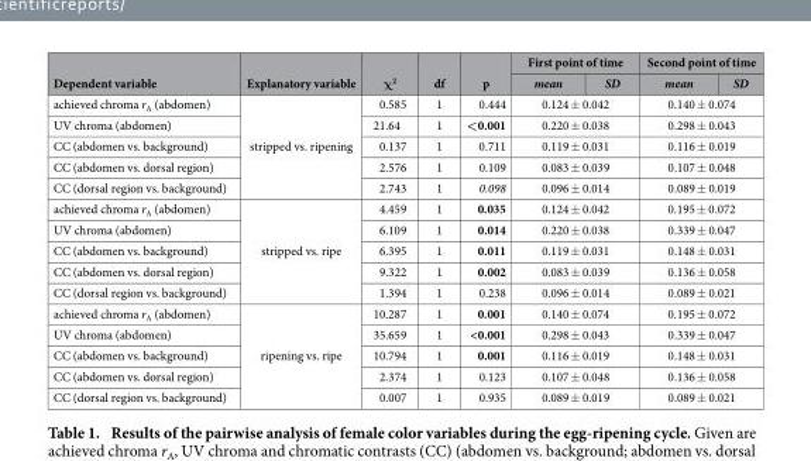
<table><thead><tr><td rowspan="2">Dependent variable</td><td rowspan="2">Explanatory variable</td><td rowspan="2">χ<sup>2</sup></td><td rowspan="2">df</td><td rowspan="2">p</td><td colspan="2">First point of time</td><td colspan="2">Second point of time</td></tr><tr><td>mean</td><td>SD</td><td>mean</td><td>SD</td></tr></thead><tbody><tr><td>achieved chroma r<sub>A</sub> (abdomen)</td><td rowspan="5">stripped vs. ripening</td><td>0.585</td><td>1</td><td>0.444</td><td colspan="2">0.124 ± 0.042</td><td colspan="2">0.140 ± 0.074</td></tr><tr><td>UV chroma (abdomen)</td><td>21.64</td><td>1</td><td>&lt;0.001</td><td colspan="2">0.220 ± 0.038</td><td colspan="2">0.298 ± 0.043</td></tr><tr><td>CC (abdomen vs. background)</td><td>0.137</td><td>1</td><td>0.711</td><td colspan="2">0.119 ± 0.031</td><td colspan="2">0.116 ± 0.019</td></tr><tr><td>CC (abdomen vs. dorsal region)</td><td>2.576</td><td>1</td><td>0.109</td><td colspan="2">0.083 ± 0.039</td><td colspan="2">0.107 ± 0.048</td></tr><tr><td>CC (dorsal region vs. background)</td><td>2.743</td><td>1</td><td>0.098</td><td colspan="2">0.096 ± 0.014</td><td colspan="2">0.089 ± 0.019</td></tr><tr><td>achieved chroma r<sub>A</sub> (abdomen)</td><td rowspan="5">stripped vs. ripe</td><td>4.459</td><td>1</td><td>0.035</td><td colspan="2">0.124 ± 0.042</td><td colspan="2">0.195 ± 0.072</td></tr><tr><td>UV chroma (abdomen)</td><td>6.109</td><td>1</td><td>0.014</td><td colspan="2">0.220 ± 0.038</td><td colspan="2">0.339 ± 0.047</td></tr><tr><td>CC (abdomen vs. background)</td><td>6.395</td><td>1</td><td>0.011</td><td colspan="2">0.119 ± 0.031</td><td colspan="2">0.148 ± 0.031</td></tr><tr><td>CC (abdomen vs. dorsal region)</td><td>9.322</td><td>1</td><td>0.002</td><td colspan="2">0.083 ± 0.039</td><td colspan="2">0.136 ± 0.058</td></tr><tr><td>CC (dorsal region vs. background)</td><td>1.394</td><td>1</td><td>0.238</td><td colspan="2">0.096 ± 0.014</td><td colspan="2">0.089 ± 0.021</td></tr><tr><td>achieved chroma r<sub>A</sub> (abdomen)</td><td rowspan="5">ripening vs. ripe</td><td>10.287</td><td>1</td><td>0.001</td><td colspan="2">0.140 ± 0.074</td><td colspan="2">0.195 ± 0.072</td></tr><tr><td>UV chroma (abdomen)</td><td>35.659</td><td>1</td><td>&lt; 0.001</td><td colspan="2">0.298 ± 0.043</td><td colspan="2">0.339 ± 0.047</td></tr><tr><td>CC (abdomen vs. background)</td><td>10.794</td><td>1</td><td>0.001</td><td colspan="2">0.116 ± 0.019</td><td colspan="2">0.148 ± 0.031</td></tr><tr><td>CC (abdomen vs. dorsal region)</td><td>2.374</td><td>1</td><td>0.123</td><td colspan="2">0.107 ± 0.048</td><td colspan="2">0.136 ± 0.058</td></tr><tr><td>CC (dorsal region vs. background)</td><td>0.007</td><td>1</td><td>0.935</td><td colspan="2">0.089 ± 0.019</td><td colspan="2">0.089 ± 0.021</td></tr></tbody></table>